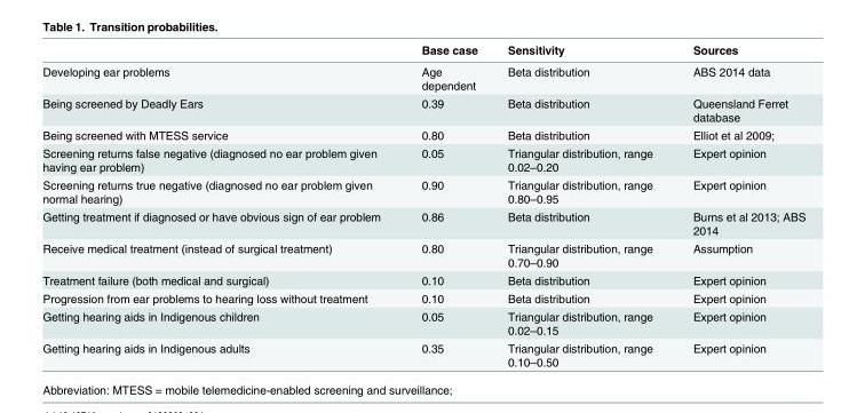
<table><thead><tr><td></td><td>Base case</td><td>Sensitivity</td><td>Sources</td></tr></thead><tbody><tr><td>Developing ear problems</td><td>Age dependent</td><td>Beta distribution</td><td>ABS 2014 data</td></tr><tr><td>Being screened by Deadly Ears</td><td>0.39</td><td>Beta distribution</td><td>Queensland Ferret database</td></tr><tr><td>Being screened with MTESS service</td><td>0.80</td><td>Beta distribution</td><td>Elliot et al 2009;</td></tr><tr><td>Screening returns false negative (diagnosed no ear problem given having ear problem)</td><td>0.05</td><td>Triangular distribution, range 0.02–0.20</td><td>Expert opinion</td></tr><tr><td>Screening returns true negative (diagnosed no ear problem given normal hearing)</td><td>0.90</td><td>Triangular distribution, range 0.80–0.95</td><td>Expert opinion</td></tr><tr><td>Getting treatment if diagnosed or have obvious sign of ear problem</td><td>0.86</td><td>Beta distribution</td><td>Burns et al 2013; ABS 2014</td></tr><tr><td>Receive medical treatment (instead of surgical treatment)</td><td>0.80</td><td>Triangular distribution, range 0.70–0.90</td><td>Assumption</td></tr><tr><td>Treatment failure (both medical and surgical)</td><td>0.10</td><td>Beta distribution</td><td>Expert opinion</td></tr><tr><td>Progression from ear problems to hearing loss without treatment</td><td>0.10</td><td>Beta distribution</td><td>Expert opinion</td></tr><tr><td>Getting hearing aids in Indigenous children</td><td>0.05</td><td>Triangular distribution, range 0.02–0.15</td><td>Expert opinion</td></tr><tr><td>Getting hearing aids in Indigenous adults</td><td>0.35</td><td>Triangular distribution, range 0.10–0.50</td><td>Expert opinion</td></tr></tbody></table>